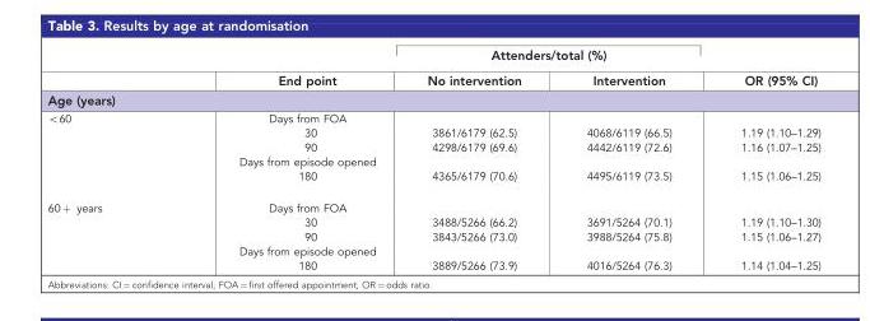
<table><thead><tr><td rowspan="2"></td><td rowspan="2">End point</td><td colspan="2">Attenders/total (%)</td><td rowspan="2">OR (95% CI)</td></tr><tr><td>No intervention</td><td>Intervention</td></tr></thead><tbody><tr><td colspan="5">Age (years)</td></tr><tr><td rowspan="5">&lt;60</td><td>Days from FOA</td><td></td><td></td><td></td></tr><tr><td>30</td><td>3861/6179 (62.5)</td><td>4068/6119 (66.5)</td><td>1.19 (1.10–1.29)</td></tr><tr><td>90</td><td>4298/6179 (69.6)</td><td>4442/6119 (72.6)</td><td>1.16 (1.07–1.25)</td></tr><tr><td>Days from episode opened</td><td></td><td></td><td></td></tr><tr><td>180</td><td>4365/6179 (70.6)</td><td>4495/6119 (73.5)</td><td>1.15 (1.06–1.25)</td></tr><tr><td rowspan="5">60 + years</td><td>Days from FOA</td><td></td><td></td><td></td></tr><tr><td>30</td><td>3488/5266 (66.2)</td><td>3691/5264 (70.1)</td><td>1.19 (1.10–1.30)</td></tr><tr><td>90</td><td>3843/5266 (73.0)</td><td>3988/5264 (75.8)</td><td>1.15 (1.06–1.27)</td></tr><tr><td>Days from episode opened</td><td></td><td></td><td></td></tr><tr><td>180</td><td>3889/5266 (73.9)</td><td>4016/5264 (76.3)</td><td>1.14 (1.04–1.25)</td></tr></tbody></table>